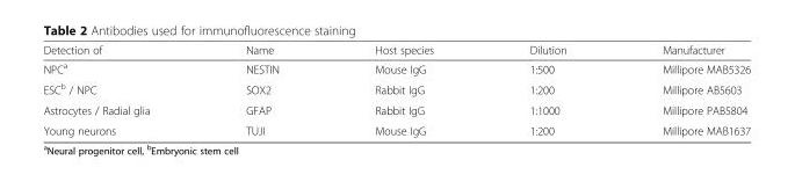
<table><thead><tr><td>Detection of</td><td>Name</td><td>Host species</td><td>Dilution</td><td>Manufacturer</td></tr></thead><tbody><tr><td>NPC<sup>a</sup></td><td>NESTIN</td><td>Mouse IgG</td><td>1:500</td><td>Millipore MAB5326</td></tr><tr><td>ESC<sup>b</sup> / NPC</td><td>SOX2</td><td>Rabbit IgG</td><td>1:200</td><td>Millipore AB5603</td></tr><tr><td>Astrocytes / Radial glia</td><td>GFAP</td><td>Rabbit IgG</td><td>1:1000</td><td>Millipore PAB5804</td></tr><tr><td>Young neurons</td><td>TUJI</td><td>Mouse IgG</td><td>1:200</td><td>Millipore MAB1637</td></tr></tbody></table>